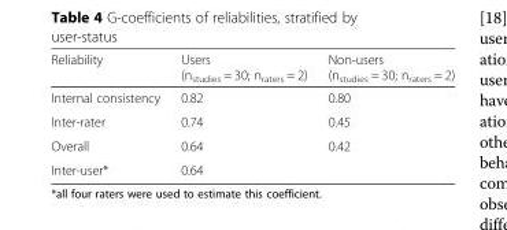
<table><thead><tr><td>Reliability</td><td>Users (n<sub>studies</sub> = 30; n<sub>raters</sub> = 2)</td><td>Non-users (n<sub>studies</sub> = 30; n<sub>raters</sub> = 2)</td></tr></thead><tbody><tr><td>Internal consistency</td><td>0.82</td><td>0.80</td></tr><tr><td>Inter-rater</td><td>0.74</td><td>0.45</td></tr><tr><td>Overall</td><td>0.64</td><td>0.42</td></tr><tr><td>Inter-user*</td><td colspan="2">0.64</td></tr></tbody></table>